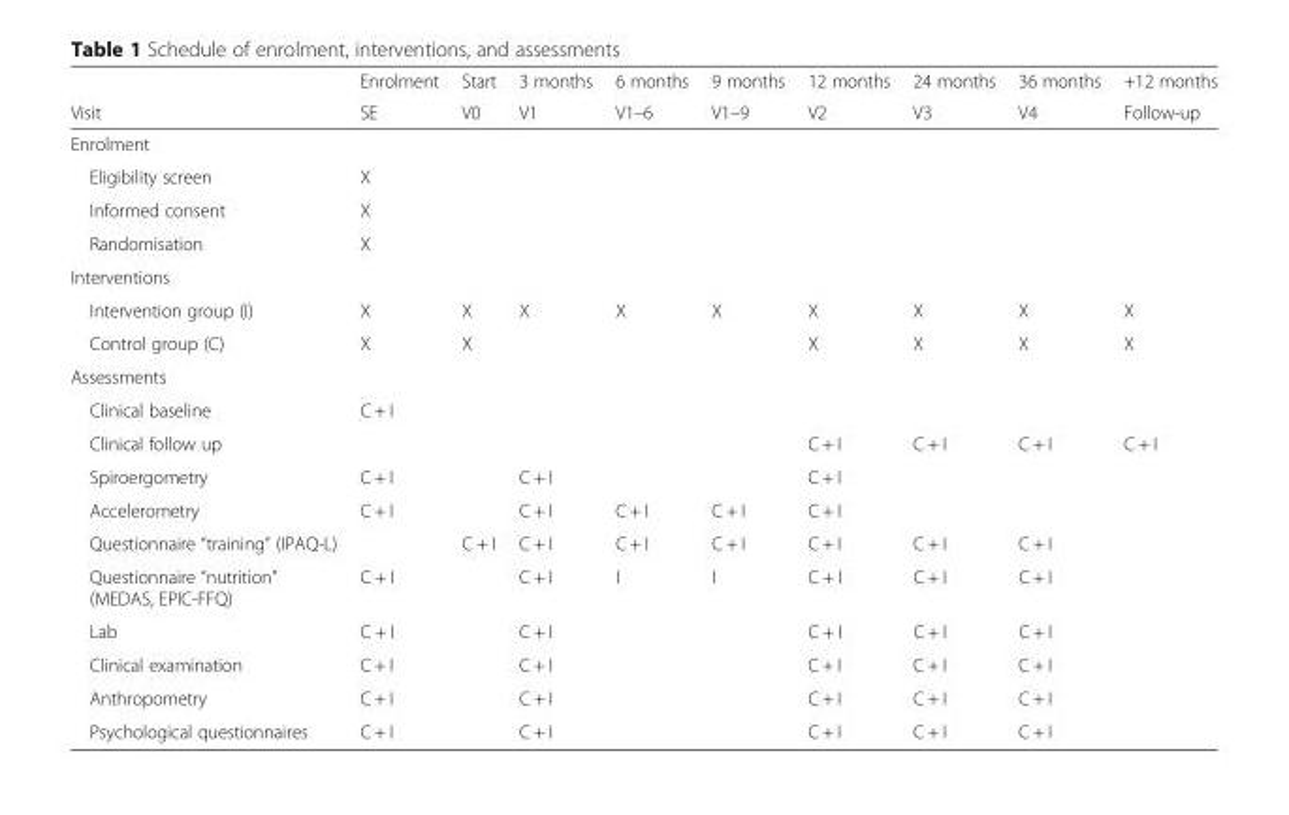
<table><thead><tr><td rowspan="2">Visit</td><td rowspan="2">Enrolment SE</td><td rowspan="2">Start V0</td><td rowspan="2">3 months V1</td><td rowspan="2">6 months V1–6</td><td rowspan="2">9 months V1–9</td><td rowspan="2">12 months V2</td><td rowspan="2">24 months V3</td><td rowspan="2">36 months V4</td><td rowspan="2">+12 months Follow-up</td></tr><tr></tr></thead><tbody><tr><td colspan="10">Enrolment</td></tr><tr><td>Eligibility screen</td><td>X</td><td></td><td></td><td></td><td></td><td></td><td></td><td></td><td></td></tr><tr><td>Informed consent</td><td>X</td><td></td><td></td><td></td><td></td><td></td><td></td><td></td><td></td></tr><tr><td>Randomisation</td><td>X</td><td></td><td></td><td></td><td></td><td></td><td></td><td></td><td></td></tr><tr><td colspan="10">Interventions</td></tr><tr><td>Intervention group (I)</td><td>X</td><td>X</td><td>X</td><td>X</td><td>X</td><td>X</td><td>X</td><td>X</td><td>X</td></tr><tr><td>Control group (C)</td><td>X</td><td>X</td><td></td><td></td><td></td><td>X</td><td>X</td><td>X</td><td>X</td></tr><tr><td colspan="10">Assessments</td></tr><tr><td>Clinical baseline</td><td>C + I</td><td></td><td></td><td></td><td></td><td></td><td></td><td></td><td></td></tr><tr><td>Clinical follow up</td><td></td><td></td><td></td><td></td><td></td><td>C + I</td><td>C + I</td><td>C + I</td><td>C + I</td></tr><tr><td>Spiroergometry</td><td>C + I</td><td></td><td>C + I</td><td></td><td></td><td>C + I</td><td></td><td></td><td></td></tr><tr><td>Accelerometry</td><td>C + I</td><td></td><td>C + I</td><td>C + I</td><td>C + I</td><td>C + I</td><td></td><td></td><td></td></tr><tr><td>Questionnaire “training” (IPAQ-L)</td><td></td><td>C + I</td><td>C + I</td><td>C + I</td><td>C + I</td><td>C + I</td><td>C + I</td><td>C + I</td><td></td></tr><tr><td>Questionnaire “nutrition” (MEDAS, EPIC-FFQ)</td><td>C + I</td><td></td><td>C + I</td><td>I</td><td>I</td><td>C + I</td><td>C + I</td><td>C + I</td><td></td></tr><tr><td>Lab</td><td>C + I</td><td></td><td>C + I</td><td></td><td></td><td>C + I</td><td>C + I</td><td>C + I</td><td></td></tr><tr><td>Clinical examination</td><td>C + I</td><td></td><td>C + I</td><td></td><td></td><td>C + I</td><td>C + I</td><td>C + I</td><td></td></tr><tr><td>Anthropometry</td><td>C + I</td><td></td><td>C + I</td><td></td><td></td><td>C + I</td><td>C + I</td><td>C + I</td><td></td></tr><tr><td>Psychological questionnaires</td><td>C + I</td><td></td><td>C + I</td><td></td><td></td><td>C + I</td><td>C + I</td><td>C + I</td><td></td></tr></tbody></table>